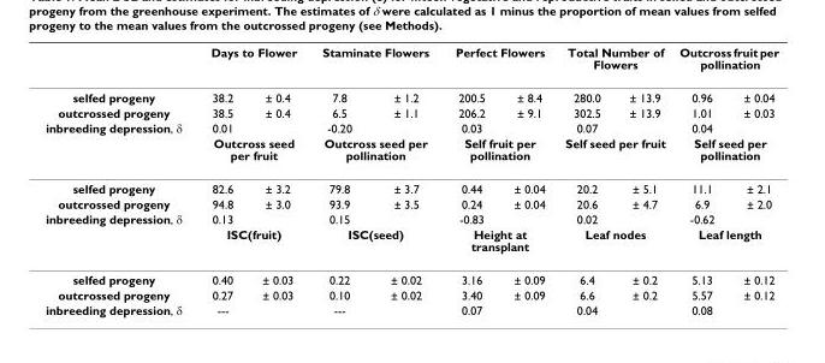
<table><thead><tr><td rowspan="2">selfed progeny</td><td colspan="2">Days to Flower</td><td colspan="2">Staminate Flowers</td><td colspan="2">Perfect Flowers</td><td colspan="2">Total Number of Flowers</td><td colspan="2">Outcross fruit per pollination</td></tr><tr><td>38.2</td><td>± 0.4</td><td>7.8</td><td>± 1.2</td><td>200.5</td><td>± 8.4</td><td>280.0</td><td>± 13.9</td><td>0.96</td><td>± 0.04</td></tr></thead><tbody><tr><td>outcrossed progeny</td><td>38.5</td><td>± 0.4</td><td>6.5</td><td>± 1.1</td><td>206.2</td><td>± 9.1</td><td>302.5</td><td>± 13.9</td><td>1.01</td><td>± 0.03</td></tr><tr><td rowspan="2">inbreeding depression, δ</td><td>0.01</td><td></td><td>-0.20</td><td></td><td>0.03</td><td></td><td>0.07</td><td></td><td>0.04</td><td></td></tr><tr><td colspan="2">Outcross seed per fruit</td><td colspan="2">Outcross seed per pollination</td><td colspan="2">Self fruit per pollination</td><td colspan="2">Self seed per fruit</td><td colspan="2">Self seed per pollination</td></tr><tr><td>selfed progeny</td><td>82.6</td><td>± 3.2</td><td>79.8</td><td>± 3.7</td><td>0.44</td><td>± 0.04</td><td>20.2</td><td>± 5.1</td><td>11.1</td><td>± 2.1</td></tr><tr><td>outcrossed progeny</td><td>94.8</td><td>± 3.0</td><td>93.9</td><td>± 3.5</td><td>0.24</td><td>± 0.04</td><td>20.6</td><td>± 4.7</td><td>6.9</td><td>± 2.0</td></tr><tr><td rowspan="2">inbreeding depression, δ</td><td>0.13</td><td></td><td>0.15</td><td></td><td>-0.83</td><td></td><td>0.02</td><td></td><td>-0.62</td><td></td></tr><tr><td colspan="2">ISC(fruit)</td><td colspan="2">ISC(seed)</td><td colspan="2">Height at transplant</td><td colspan="2">Leaf nodes</td><td colspan="2">Leaf length</td></tr><tr><td>selfed progeny</td><td>0.40</td><td>± 0.03</td><td>0.22</td><td>± 0.02</td><td>3.16</td><td>± 0.09</td><td>6.4</td><td>± 0.2</td><td>5.13</td><td>± 0.12</td></tr><tr><td>outcrossed progeny</td><td>0.27</td><td>± 0.03</td><td>0.10</td><td>± 0.02</td><td>3.40</td><td>± 0.09</td><td>6.6</td><td>± 0.2</td><td>5.57</td><td>± 0.12</td></tr><tr><td>inbreeding depression, δ</td><td>---</td><td></td><td>---</td><td></td><td>0.07</td><td></td><td>0.04</td><td></td><td>0.08</td><td></td></tr></tbody></table>